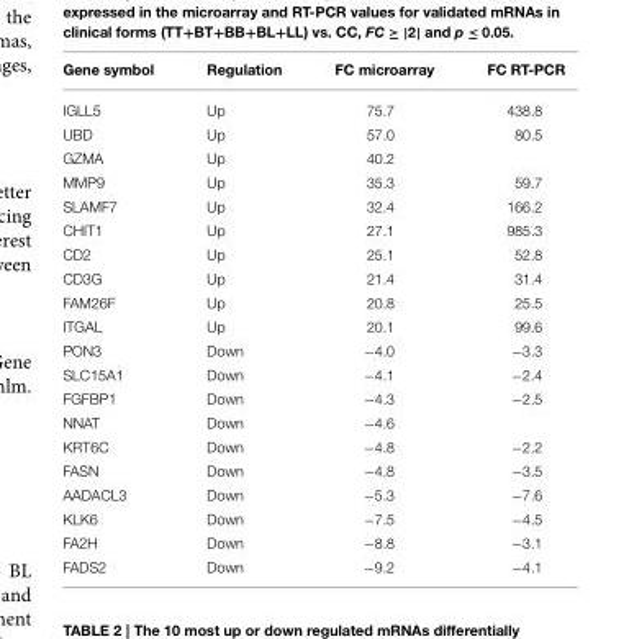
<table><thead><tr><td>Gene symbol</td><td>Regulation</td><td>FC microarray</td><td>FC RT-PCR</td></tr></thead><tbody><tr><td>IGLL5</td><td>Up</td><td>75.7</td><td>438.8</td></tr><tr><td>UBD</td><td>Up</td><td>57.0</td><td>80.5</td></tr><tr><td>GZMA</td><td>Up</td><td>40.2</td><td></td></tr><tr><td>MMP9</td><td>Up</td><td>35.3</td><td>59.7</td></tr><tr><td>SLAMF7</td><td>Up</td><td>32.4</td><td>166.2</td></tr><tr><td>CHIT1</td><td>Up</td><td>27.1</td><td>985.3</td></tr><tr><td>CD2</td><td>Up</td><td>25.1</td><td>52.8</td></tr><tr><td>CD3G</td><td>Up</td><td>21.4</td><td>31.4</td></tr><tr><td>FAM26F</td><td>Up</td><td>20.8</td><td>25.5</td></tr><tr><td>ITGAL</td><td>Up</td><td>20.1</td><td>99.6</td></tr><tr><td>PON3</td><td>Down</td><td>−4.0</td><td>−3.3</td></tr><tr><td>SLC15A1</td><td>Down</td><td>−4.1</td><td>−2.4</td></tr><tr><td>FGFBP1</td><td>Down</td><td>−4.3</td><td>−2.5</td></tr><tr><td>NNAT</td><td>Down</td><td>−4.6</td><td></td></tr><tr><td>KRT6C</td><td>Down</td><td>−4.8</td><td>−2.2</td></tr><tr><td>FASN</td><td>Down</td><td>−4.8</td><td>−3.5</td></tr><tr><td>AADACL3</td><td>Down</td><td>−5.3</td><td>−7.6</td></tr><tr><td>KLK6</td><td>Down</td><td>−7.5</td><td>−4.5</td></tr><tr><td>FA2H</td><td>Down</td><td>−8.8</td><td>−3.1</td></tr><tr><td>FADS2</td><td>Down</td><td>−9.2</td><td>−4.1</td></tr></tbody></table>